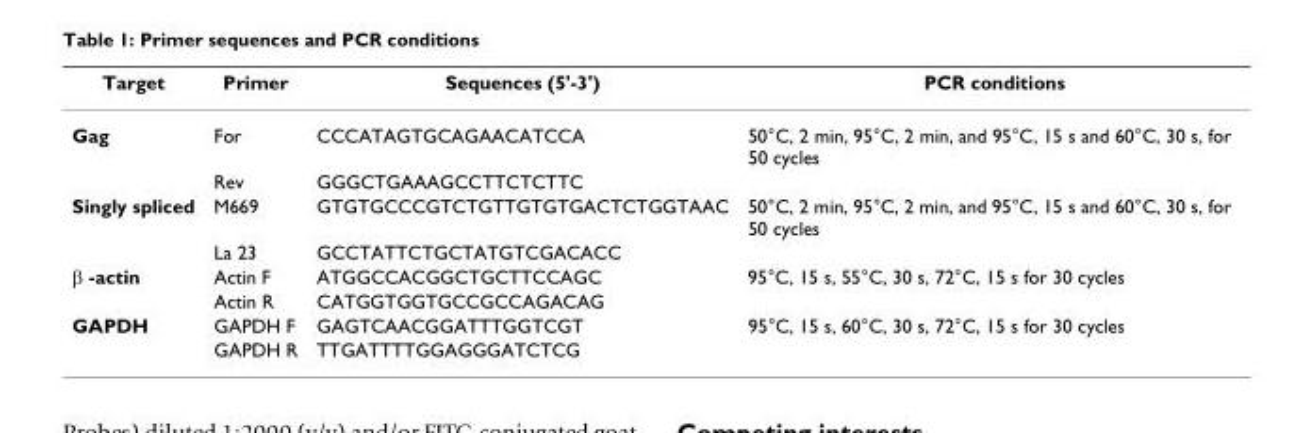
<table><thead><tr><td>Target</td><td>Primer</td><td>Sequences (5&#x27;-3&#x27;)</td><td>PCR conditions</td></tr></thead><tbody><tr><td rowspan="2">Gag</td><td>For</td><td>CCCATAGTGCAGAACATCCA</td><td>50°C, 2 min, 95°C, 2 min, and 95°C, 15 s and 60°C, 30 s, for 50 cycles</td></tr><tr><td>Rev</td><td>GGGCTGAAAGCCTTCTCTTC</td><td></td></tr><tr><td rowspan="2">Singly spliced</td><td>M669</td><td>GTGTGCCCGTCTGTTGTGTGACTCTGGTAAC</td><td>50°C, 2 min, 95°C, 2 min, and 95°C, 15 s and 60°C, 30 s, for 50 cycles</td></tr><tr><td>La 23</td><td>GCCTATTCTGCTATGTCGACACC</td><td></td></tr><tr><td rowspan="2">β -actin</td><td>Actin F</td><td>ATGGCCACGGCTGCTTCCAGC</td><td>95°C, 15 s, 55°C, 30 s, 72°C, 15 s for 30 cycles</td></tr><tr><td>Actin R</td><td>CATGGTGGTGCCGCCAGACAG</td><td></td></tr><tr><td rowspan="2">GAPDH</td><td>GAPDH F</td><td>GAGTCAACGGATTTGGTCGT</td><td>95°C, 15 s, 60°C, 30 s, 72°C, 15 s for 30 cycles</td></tr><tr><td>GAPDH R</td><td>TTGATTTTGGAGGGATCTCG</td><td></td></tr></tbody></table>